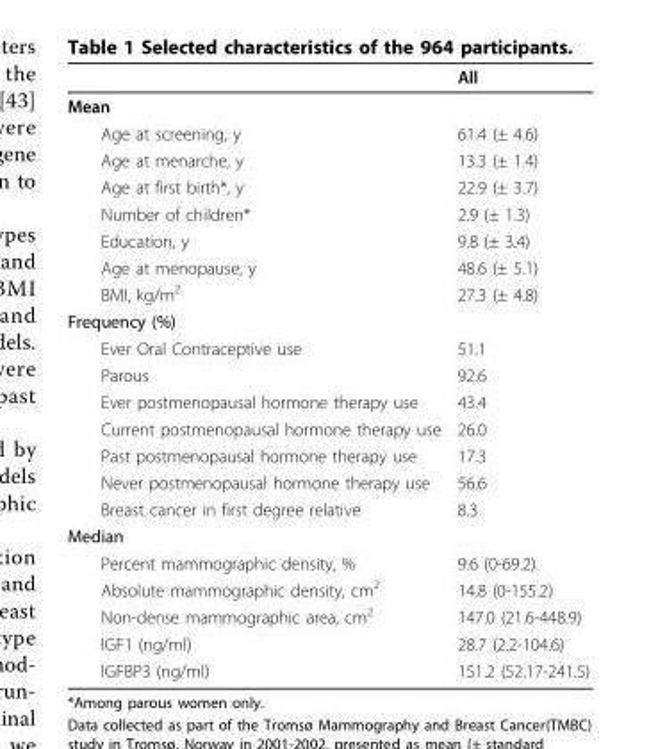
<table><thead><tr><td></td><td>All</td></tr></thead><tbody><tr><td colspan="2">Mean</td></tr><tr><td>Age at screening, y</td><td>61.4 (± 4.6)</td></tr><tr><td>Age at menarche, y</td><td>13.3 (± 1.4)</td></tr><tr><td>Age at first birth*, y</td><td>22.9 (± 3.7)</td></tr><tr><td>Number of children*</td><td>2.9 (± 1.3)</td></tr><tr><td>Education, y</td><td>9.8 (± 3.4)</td></tr><tr><td>Age at menopause, y</td><td>48.6 (± 5.1)</td></tr><tr><td>BMI, kg/m<sup>2</sup></td><td>27.3 (± 4.8)</td></tr><tr><td colspan="2">Frequency (%)</td></tr><tr><td>Ever Oral Contraceptive use</td><td>51.1</td></tr><tr><td>Parous</td><td>92.6</td></tr><tr><td>Ever postmenopausal hormone therapy use</td><td>43.4</td></tr><tr><td>Current postmenopausal hormone therapy use</td><td>26.0</td></tr><tr><td>Past postmenopausal hormone therapy use</td><td>17.3</td></tr><tr><td>Never postmenopausal hormone therapy use</td><td>56.6</td></tr><tr><td>Breast cancer in first degree relative</td><td>8.3</td></tr><tr><td colspan="2">Median</td></tr><tr><td>Percent mammographic density, %</td><td>9.6 (0-69.2)</td></tr><tr><td>Absolute mammographic density, cm<sup>2</sup></td><td>14.8 (0-155.2)</td></tr><tr><td>Non-dense mammographic area, cm<sup>2</sup></td><td>147.0 (21.6-448.9)</td></tr><tr><td>IGF1 (ng/ml)</td><td>28.7 (2.2-104.6)</td></tr><tr><td>IGFBP3 (ng/ml)</td><td>151.2 (52.17-241.5)</td></tr></tbody></table>